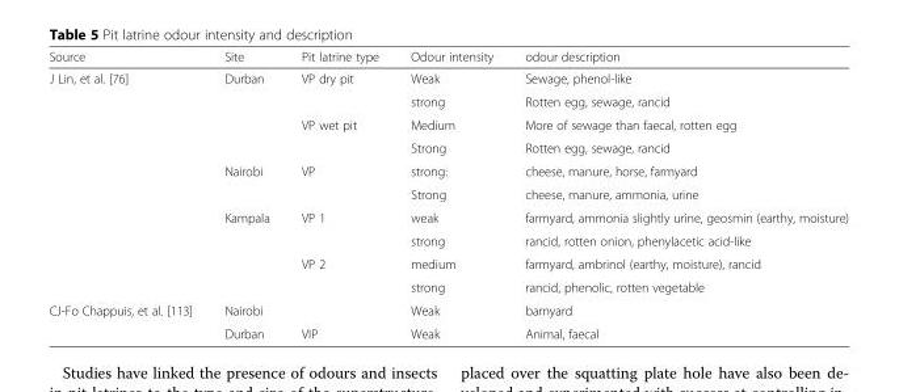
<table><thead><tr><td>Source</td><td>Site</td><td>Pit latrine type</td><td>Odour intensity</td><td>odour description</td></tr></thead><tbody><tr><td rowspan="10">J Lin, et al. [76]</td><td rowspan="4">Durban</td><td rowspan="2">VP dry pit</td><td>Weak</td><td>Sewage, phenol-like</td></tr><tr><td>strong</td><td>Rotten egg, sewage, rancid</td></tr><tr><td rowspan="2">VP wet pit</td><td>Medium</td><td>More of sewage than faecal, rotten egg</td></tr><tr><td>Strong</td><td>Rotten egg, sewage, rancid</td></tr><tr><td rowspan="2">Nairobi</td><td rowspan="2">VP</td><td>strong:</td><td>cheese, manure, horse, farmyard</td></tr><tr><td>Strong</td><td>cheese, manure, ammonia, urine</td></tr><tr><td rowspan="2">Kampala</td><td rowspan="2">VP 1</td><td>weak</td><td>farmyard, ammonia slightly urine, geosmin (earthy, moisture)</td></tr><tr><td>strong</td><td>rancid, rotten onion, phenylacetic acid-like</td></tr><tr><td rowspan="2"></td><td rowspan="2">VP 2</td><td>medium</td><td>farmyard, ambrinol (earthy, moisture), rancid</td></tr><tr><td>strong</td><td>rancid, phenolic, rotten vegetable</td></tr><tr><td rowspan="2">CJ-Fo Chappuis, et al. [113]</td><td>Nairobi</td><td></td><td>Weak</td><td>barnyard</td></tr><tr><td>Durban</td><td>VIP</td><td>Weak</td><td>Animal, faecal</td></tr></tbody></table>